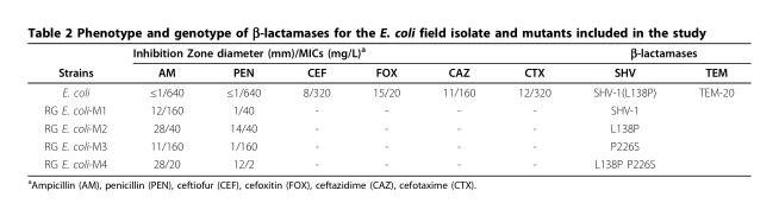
<table><thead><tr><td rowspan="2">Strains</td><td colspan="6">Inhibition Zone diameter (mm)/MICs (mg/L)<sup>a</sup></td><td colspan="2">β-lactamases</td></tr><tr><td>AM</td><td>PEN</td><td>CEF</td><td>FOX</td><td>CAZ</td><td>CTX</td><td>SHV</td><td>TEM</td></tr></thead><tbody><tr><td>E. coli</td><td>≤1/640</td><td>≤1/640</td><td>8/320</td><td>15/20</td><td>11/160</td><td>12/320</td><td>SHV-1(L138P)</td><td>TEM-20</td></tr><tr><td>RG E. coli-M1</td><td>12/160</td><td>1/40</td><td>-</td><td>-</td><td>-</td><td>-</td><td>SHV-1</td><td></td></tr><tr><td>RG E. coli-M2</td><td>28/40</td><td>14/40</td><td>-</td><td>-</td><td>-</td><td>-</td><td>L138P</td><td></td></tr><tr><td>RG E. coli-M3</td><td>11/160</td><td>1/160</td><td>-</td><td>-</td><td>-</td><td>-</td><td>P226S</td><td></td></tr><tr><td>RG E. coli-M4</td><td>28/20</td><td>12/2</td><td>-</td><td>-</td><td>-</td><td>-</td><td>L138P P226S</td><td></td></tr></tbody></table>